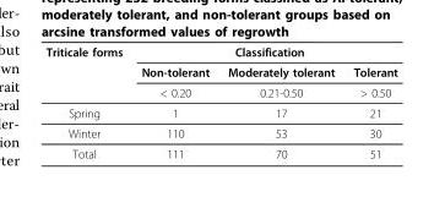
<table><thead><tr><td rowspan="3">Triticale forms</td><td colspan="3">Classification</td></tr><tr><td rowspan="2">Non-tolerant &lt; 0.20</td><td rowspan="2">Moderately tolerant 0.21-0.50</td><td rowspan="2">Tolerant &gt; 0.50</td></tr><tr></tr></thead><tbody><tr><td>Spring</td><td>1</td><td>17</td><td>21</td></tr><tr><td>Winter</td><td>110</td><td>53</td><td>30</td></tr><tr><td>Total</td><td>111</td><td>70</td><td>51</td></tr></tbody></table>